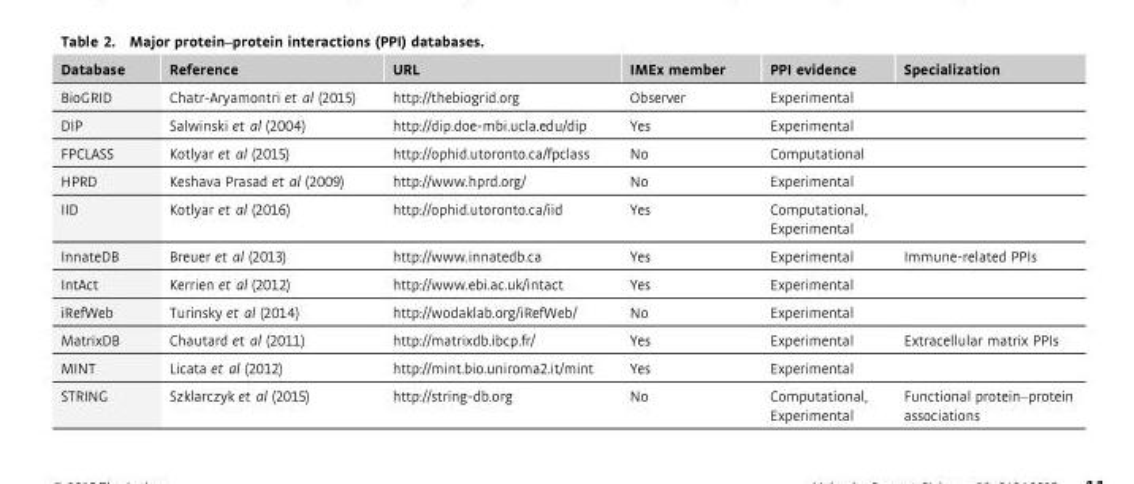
<table><thead><tr><td>Database</td><td>Reference</td><td>URL</td><td>IMEx member</td><td>PPI evidence</td><td>Specialization</td></tr></thead><tbody><tr><td>BioGRID</td><td>Chatr-Aryamontri et al (2015)</td><td>http://thebiogrid.org</td><td>Observer</td><td>Experimental</td><td></td></tr><tr><td>DIP</td><td>Salwinski et al (2004)</td><td>http://dip.doe-mbi.ucla.edu/dip</td><td>Yes</td><td>Experimental</td><td></td></tr><tr><td>FPCLASS</td><td>Kotlyar et al (2015)</td><td>http://ophid.utoronto.ca/fpclass</td><td>No</td><td>Computational</td><td></td></tr><tr><td>HPRD</td><td>Keshava Prasad et al (2009)</td><td>http://www.hprd.org/</td><td>No</td><td>Experimental</td><td></td></tr><tr><td>IID</td><td>Kotlyar et al (2016)</td><td>http://ophid.utoronto.ca/iid</td><td>Yes</td><td>Computational, Experimental</td><td></td></tr><tr><td>InnateDB</td><td>Breuer et al (2013)</td><td>http://www.innatedb.ca</td><td>Yes</td><td>Experimental</td><td>Immune-related PPIs</td></tr><tr><td>IntAct</td><td>Kerrien et al (2012)</td><td>http://www.ebi.ac.uk/intact</td><td>Yes</td><td>Experimental</td><td></td></tr><tr><td>iRefWeb</td><td>Turinsky et al (2014)</td><td>http://wodaklab.org/iRefWeb/</td><td>No</td><td>Experimental</td><td></td></tr><tr><td>MatrixDB</td><td>Chautard et al (2011)</td><td>http://matrixdb.ibcp.fr/</td><td>Yes</td><td>Experimental</td><td>Extracellular matrix PPIs</td></tr><tr><td>MINT</td><td>Licata et al (2012)</td><td>http://mint.bio.uniroma2.it/mint</td><td>Yes</td><td>Experimental</td><td></td></tr><tr><td>STRING</td><td>Szklarczyk et al (2015)</td><td>http://string-db.org</td><td>No</td><td>Computational, Experimental</td><td>Functional protein–protein associations</td></tr></tbody></table>